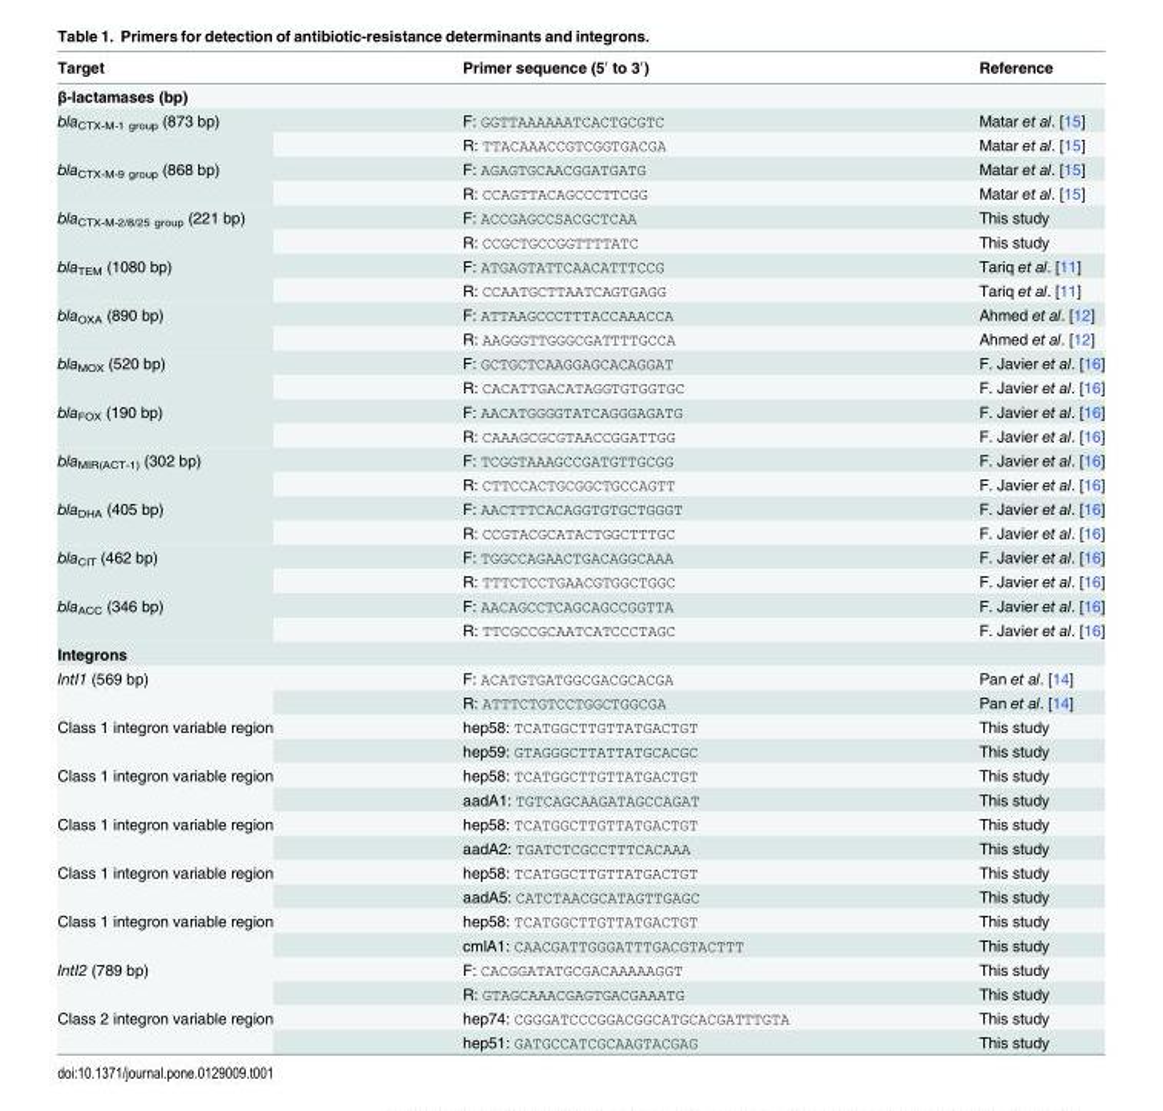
<table><thead><tr><td>Target</td><td>Primer sequence (5′ to 3′)</td><td>Reference</td></tr></thead><tbody><tr><td colspan="3">β-lactamases (bp)</td></tr><tr><td rowspan="2">bla<sub>CTX-M-1 group</sub> (873 bp)</td><td>F: GGTTAAAAAATCACTGCGTC</td><td>Matar et al. [15]</td></tr><tr><td>R: TTACAAACCGTCGGTGACGA</td><td>Matar et al. [15]</td></tr><tr><td rowspan="2">bla<sub>CTX-M-9 group</sub> (868 bp)</td><td>F: AGAGTGCAACGGATGATG</td><td>Matar et al. [15]</td></tr><tr><td>R: CCAGTTACAGCCCTTCGG</td><td>Matar et al. [15]</td></tr><tr><td rowspan="2">bla<sub>CTX-M-2/8/25 group</sub> (221 bp)</td><td>F: ACCGAGCCSACGCTCAA</td><td>This study</td></tr><tr><td>R: CCGCTGCCGGTTTTATC</td><td>This study</td></tr><tr><td rowspan="2">bla<sub>TEM</sub> (1080 bp)</td><td>F: ATGAGTATTCAACATTTCCG</td><td>Tariq et al. [11]</td></tr><tr><td>R: CCAATGCTTAATCAGTGAGG</td><td>Tariq et al. [11]</td></tr><tr><td rowspan="2">bla<sub>OXA</sub> (890 bp)</td><td>F: ATTAAGCCCTTTACCAAACCA</td><td>Ahmed et al. [12]</td></tr><tr><td>R: AAGGGTTGGGCGATTTTGCCA</td><td>Ahmed et al. [12]</td></tr><tr><td rowspan="2">bla<sub>MOX</sub> (520 bp)</td><td>F: GCTGCTCAAGGAGCACAGGAT</td><td>F. Javier et al. [16]</td></tr><tr><td>R: CACATTGACATAGGTGTGGTGC</td><td>F. Javier et al. [16]</td></tr><tr><td rowspan="2">bla<sub>FOX</sub> (190 bp)</td><td>F: AACATGGGGTATCAGGGAGATG</td><td>F. Javier et al. [16]</td></tr><tr><td>R: CAAAGCGCGTAACCGGATTGG</td><td>F. Javier et al. [16]</td></tr><tr><td rowspan="2">bla<sub>MIR(ACT-1)</sub> (302 bp)</td><td>F: TCGGTAAAGCCGATGTTGCGG</td><td>F. Javier et al. [16]</td></tr><tr><td>R: CTTCCACTGCGGCTGCCAGTT</td><td>F. Javier et al. [16]</td></tr><tr><td rowspan="2">bla<sub>DHA</sub> (405 bp)</td><td>F: AACTTTCACAGGTGTGCTGGGT</td><td>F. Javier et al. [16]</td></tr><tr><td>R: CCGTACGCATACTGGCTTTGC</td><td>F. Javier et al. [16]</td></tr><tr><td rowspan="2">bla<sub>CIT</sub> (462 bp)</td><td>F: TGGCCAGAACTGACAGGCAAA</td><td>F. Javier et al. [16]</td></tr><tr><td>R: TTTCTCCTGAACGTGGCTGGC</td><td>F. Javier et al. [16]</td></tr><tr><td rowspan="2">bla<sub>ACC</sub> (346 bp)</td><td>F: AACAGCCTCAGCAGCCGGTTA</td><td>F. Javier et al. [16]</td></tr><tr><td>R: TTCGCCGCAATCATCCCTAGC</td><td>F. Javier et al. [16]</td></tr><tr><td colspan="3">Integrons</td></tr><tr><td rowspan="2">IntI1 (569 bp)</td><td>F: ACATGTGATGGCGACGCACGA</td><td>Pan et al. [14]</td></tr><tr><td>R: ATTTCTGTCCTGGCTGGCGA</td><td>Pan et al. [14]</td></tr><tr><td rowspan="2">Class 1 integron variable region</td><td>hep58: TCATGGCTTGTTATGACTGT</td><td>This study</td></tr><tr><td>hep59: GTAGGGCTTATTATGCACGC</td><td>This study</td></tr><tr><td rowspan="2">Class 1 integron variable region</td><td>hep58: TCATGGCTTGTTATGACTGT</td><td>This study</td></tr><tr><td>aadA1: TGTCAGCAAGATAGCCAGAT</td><td>This study</td></tr><tr><td rowspan="2">Class 1 integron variable region</td><td>hep58: TCATGGCTTGTTATGACTGT</td><td>This study</td></tr><tr><td>aadA2: TGATCTCGCCTTTCACAAA</td><td>This study</td></tr><tr><td rowspan="2">Class 1 integron variable region</td><td>hep58: TCATGGCTTGTTATGACTGT</td><td>This study</td></tr><tr><td>aadA5: CATCTAACGCATAGTTGAGC</td><td>This study</td></tr><tr><td rowspan="2">Class 1 integron variable region</td><td>hep58: TCATGGCTTGTTATGACTGT</td><td>This study</td></tr><tr><td>cmlA1: CAACGATTGGGATTTGACGTACTTT</td><td>This study</td></tr><tr><td rowspan="2">IntI2 (789 bp)</td><td>F: CACGGATATGCGACAAAAAGGT</td><td>This study</td></tr><tr><td>R: GTAGCAAACGAGTGACGAAATG</td><td>This study</td></tr><tr><td rowspan="2">Class 2 integron variable region</td><td>hep74: CGGGATCCCGGACGGCATGCACGATTTGTA</td><td>This study</td></tr><tr><td>hep51: GATGCCATCGCAAGTACGAG</td><td>This study</td></tr></tbody></table>